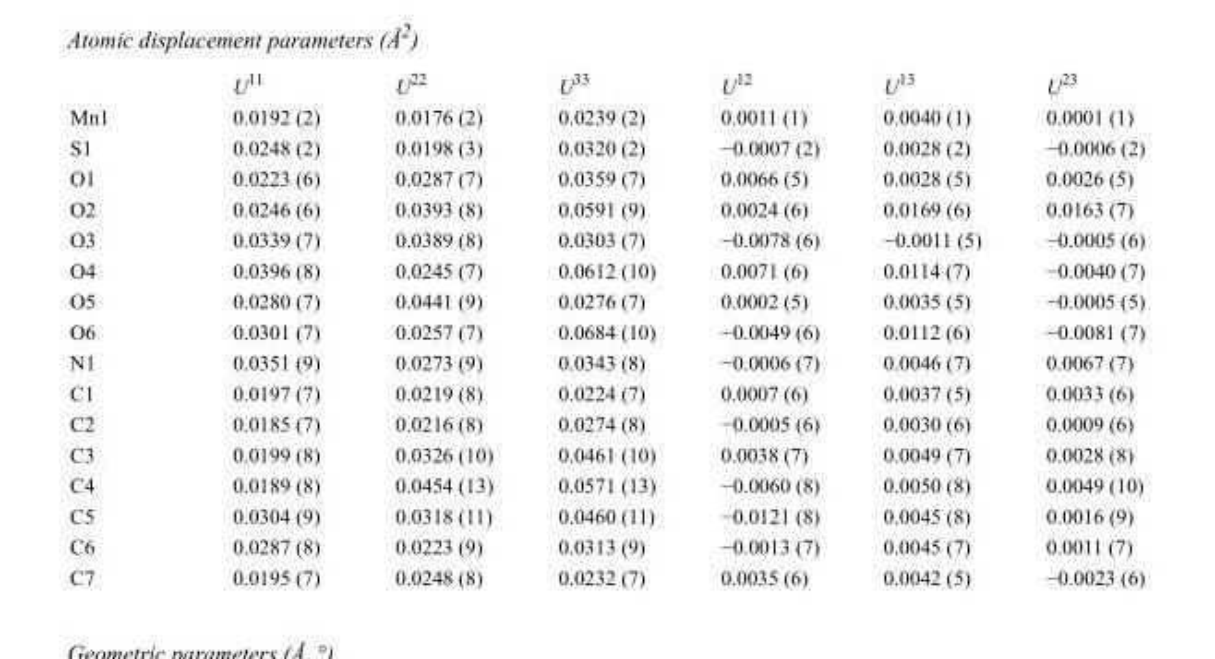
<table><thead><tr><td></td><td>U<sup>11</sup></td><td>U<sup>22</sup></td><td>U<sup>33</sup></td><td>U<sup>12</sup></td><td>U<sup>13</sup></td><td>U<sup>23</sup></td></tr></thead><tbody><tr><td>Mn1</td><td>0.0192 (2)</td><td>0.0176 (2)</td><td>0.0239 (2)</td><td>0.0011 (1)</td><td>0.0040 (1)</td><td>0.0001 (1)</td></tr><tr><td>S1</td><td>0.0248 (2)</td><td>0.0198 (3)</td><td>0.0320 (2)</td><td>−0.0007 (2)</td><td>0.0028 (2)</td><td>−0.0006 (2)</td></tr><tr><td>O1</td><td>0.0223 (6)</td><td>0.0287 (7)</td><td>0.0359 (7)</td><td>0.0066 (5)</td><td>0.0028 (5)</td><td>0.0026 (5)</td></tr><tr><td>O2</td><td>0.0246 (6)</td><td>0.0393 (8)</td><td>0.0591 (9)</td><td>0.0024 (6)</td><td>0.0169 (6)</td><td>0.0163 (7)</td></tr><tr><td>O3</td><td>0.0339 (7)</td><td>0.0389 (8)</td><td>0.0303 (7)</td><td>−0.0078 (6)</td><td>−0.0011 (5)</td><td>−0.0005 (6)</td></tr><tr><td>O4</td><td>0.0396 (8)</td><td>0.0245 (7)</td><td>0.0612 (10)</td><td>0.0071 (6)</td><td>0.0114 (7)</td><td>−0.0040 (7)</td></tr><tr><td>O5</td><td>0.0280 (7)</td><td>0.0441 (9)</td><td>0.0276 (7)</td><td>0.0002 (5)</td><td>0.0035 (5)</td><td>−0.0005 (5)</td></tr><tr><td>O6</td><td>0.0301 (7)</td><td>0.0257 (7)</td><td>0.0684 (10)</td><td>−0.0049 (6)</td><td>0.0112 (6)</td><td>−0.0081 (7)</td></tr><tr><td>N1</td><td>0.0351 (9)</td><td>0.0273 (9)</td><td>0.0343 (8)</td><td>−0.0006 (7)</td><td>0.0046 (7)</td><td>0.0067 (7)</td></tr><tr><td>C1</td><td>0.0197 (7)</td><td>0.0219 (8)</td><td>0.0224 (7)</td><td>0.0007 (6)</td><td>0.0037 (5)</td><td>0.0033 (6)</td></tr><tr><td>C2</td><td>0.0185 (7)</td><td>0.0216 (8)</td><td>0.0274 (8)</td><td>−0.0005 (6)</td><td>0.0030 (6)</td><td>0.0009 (6)</td></tr><tr><td>C3</td><td>0.0199 (8)</td><td>0.0326 (10)</td><td>0.0461 (10)</td><td>0.0038 (7)</td><td>0.0049 (7)</td><td>0.0028 (8)</td></tr><tr><td>C4</td><td>0.0189 (8)</td><td>0.0454 (13)</td><td>0.0571 (13)</td><td>−0.0060 (8)</td><td>0.0050 (8)</td><td>0.0049 (10)</td></tr><tr><td>C5</td><td>0.0304 (9)</td><td>0.0318 (11)</td><td>0.0460 (11)</td><td>−0.0121 (8)</td><td>0.0045 (8)</td><td>0.0016 (9)</td></tr><tr><td>C6</td><td>0.0287 (8)</td><td>0.0223 (9)</td><td>0.0313 (9)</td><td>−0.0013 (7)</td><td>0.0045 (7)</td><td>0.0011 (7)</td></tr><tr><td>C7</td><td>0.0195 (7)</td><td>0.0248 (8)</td><td>0.0232 (7)</td><td>0.0035 (6)</td><td>0.0042 (5)</td><td>−0.0023 (6)</td></tr></tbody></table>